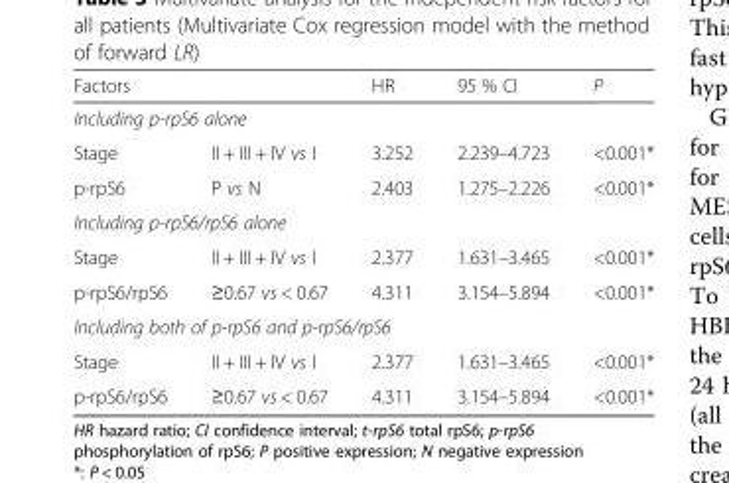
<table><thead><tr><td colspan="2">Factors</td><td>HR</td><td>95 % CI</td><td>P</td></tr><tr><td colspan="5">Including p-rpS6 alone</td></tr><tr><td>Stage</td><td>II + III + IV vs I</td><td>3.252</td><td>2.239–4.723</td><td>&lt;0.001*</td></tr></thead><tbody><tr><td>p-rpS6</td><td>P vs N</td><td>2.403</td><td>1.275–2.226</td><td>&lt;0.001*</td></tr><tr><td colspan="5">Including p-rpS6/rpS6 alone</td></tr><tr><td>Stage</td><td>II + III + IV vs I</td><td>2.377</td><td>1.631–3.465</td><td>&lt;0.001*</td></tr><tr><td>p-rpS6/rpS6</td><td>≥0.67 vs &lt; 0.67</td><td>4.311</td><td>3.154–5.894</td><td>&lt;0.001*</td></tr><tr><td colspan="5">Including both of p-rpS6 and p-rpS6/rpS6</td></tr><tr><td>Stage</td><td>II + III + IV vs I</td><td>2.377</td><td>1.631–3.465</td><td>&lt;0.001*</td></tr><tr><td>p-rpS6/rpS6</td><td>≥0.67 vs &lt; 0.67</td><td>4.311</td><td>3.154–5.894</td><td>&lt;0.001*</td></tr></tbody></table>